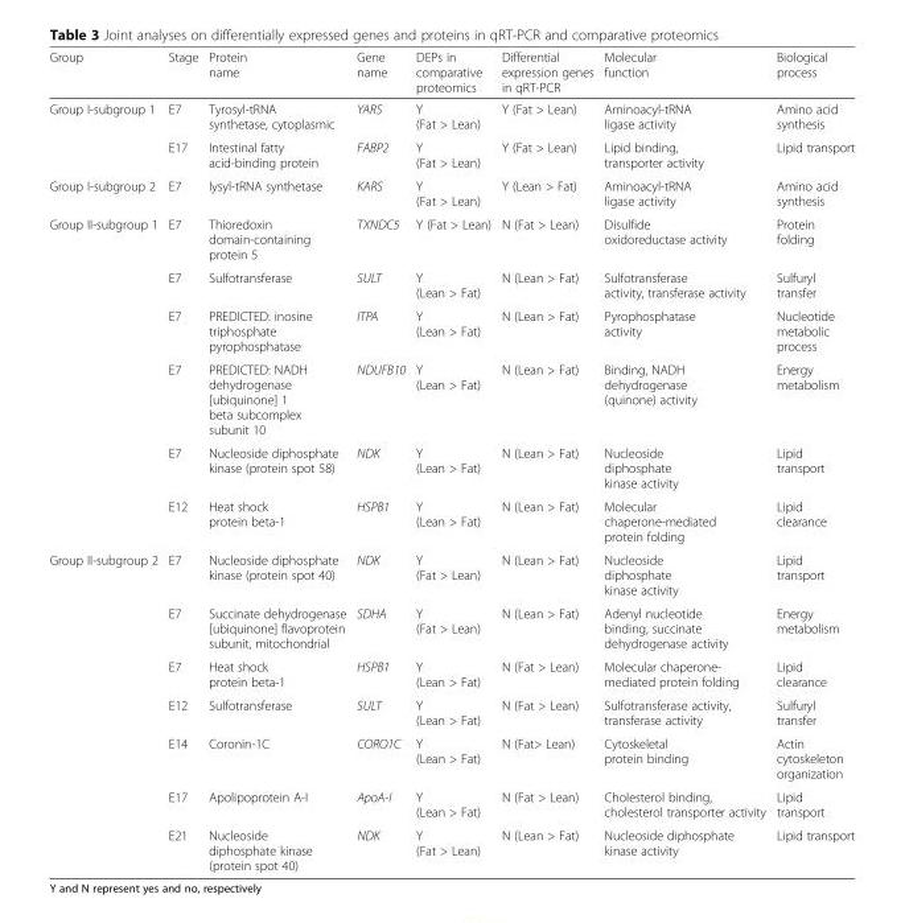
<table><thead><tr><td>Group</td><td>Stage</td><td>Protein name</td><td>Gene name</td><td>DEPs in comparative proteomics</td><td>Differential expression genes in qRT-PCR</td><td>Molecular function</td><td>Biological process</td></tr></thead><tbody><tr><td rowspan="2">Group I-subgroup 1</td><td>E7</td><td>Tyrosyl-tRNA synthetase, cytoplasmic</td><td>YARS</td><td>Y (Fat &gt; Lean)</td><td>Y (Fat &gt; Lean)</td><td>Aminoacyl-tRNA ligase activity</td><td>Amino acid synthesis</td></tr><tr><td>E17</td><td>Intestinal fatty acid-binding protein</td><td>FABP2</td><td>Y (Fat &gt; Lean)</td><td>Y (Fat &gt; Lean)</td><td>Lipid binding, transporter activity</td><td>Lipid transport</td></tr><tr><td>Group I-subgroup 2</td><td>E7</td><td>lysyl-tRNA synthetase</td><td>KARS</td><td>Y (Fat &gt; Lean)</td><td>Y (Lean &gt; Fat)</td><td>Aminoacyl-tRNA ligase activity</td><td>Amino acid synthesis</td></tr><tr><td rowspan="6">Group II-subgroup 1</td><td>E7</td><td>Thioredoxin domain-containing protein 5</td><td>TXNDC5</td><td>Y (Fat &gt; Lean)</td><td>N (Fat &gt; Lean)</td><td>Disulfide oxidoreductase activity</td><td>Protein folding</td></tr><tr><td>E7</td><td>Sulfotransferase</td><td>SULT</td><td>Y (Lean &gt; Fat)</td><td>N (Lean &gt; Fat)</td><td>Sulfotransferase activity, transferase activity</td><td>Sulfuryl transfer</td></tr><tr><td>E7</td><td>PREDICTED: inosine triphosphate pyrophosphatase</td><td>ITPA</td><td>Y (Lean &gt; Fat)</td><td>N (Lean &gt; Fat)</td><td>Pyrophosphatase activity</td><td>Nucleotide metabolic process</td></tr><tr><td>E7</td><td>PREDICTED: NADH dehydrogenase [ubiquinone] 1 beta subcomplex subunit 10</td><td>NDUFB10</td><td>Y (Lean &gt; Fat)</td><td>N (Lean &gt; Fat)</td><td>Binding, NADH dehydrogenase (quinone) activity</td><td>Energy metabolism</td></tr><tr><td>E7</td><td>Nucleoside diphosphate kinase (protein spot 58)</td><td>NDK</td><td>Y (Lean &gt; Fat)</td><td>N (Lean &gt; Fat)</td><td>Nucleoside diphosphate kinase activity</td><td>Lipid transport</td></tr><tr><td>E12</td><td>Heat shock protein beta-1</td><td>HSPB1</td><td>Y (Lean &gt; Fat)</td><td>N (Lean &gt; Fat)</td><td>Molecular chaperone-mediated protein folding</td><td>Lipid clearance</td></tr><tr><td rowspan="7">Group II-subgroup 2</td><td>E7</td><td>Nucleoside diphosphate kinase (protein spot 40)</td><td>NDK</td><td>Y (Fat &gt; Lean)</td><td>N (Lean &gt; Fat)</td><td>Nucleoside diphosphate kinase activity</td><td>Lipid transport</td></tr><tr><td>E7</td><td>Succinate dehydrogenase [ubiquinone] flavoprotein subunit, mitochondrial</td><td>SDHA</td><td>Y (Fat &gt; Lean)</td><td>N (Lean &gt; Fat)</td><td>Adenyl nucleotide binding, succinate dehydrogenase activity</td><td>Energy metabolism</td></tr><tr><td>E7</td><td>Heat shock protein beta-1</td><td>HSPB1</td><td>Y (Lean &gt; Fat)</td><td>N (Fat &gt; Lean)</td><td>Molecular chaperone- mediated protein folding</td><td>Lipid clearance</td></tr><tr><td>E12</td><td>Sulfotransferase</td><td>SULT</td><td>Y (Lean &gt; Fat)</td><td>N (Fat &gt; Lean)</td><td>Sulfotransferase activity, transferase activity</td><td>Sulfuryl transfer</td></tr><tr><td>E14</td><td>Coronin-1C</td><td>CORO1C</td><td>Y (Lean &gt; Fat)</td><td>N (Fat&gt; Lean)</td><td>Cytoskeletal protein binding</td><td>Actin cytoskeleton organization</td></tr><tr><td>E17</td><td>Apolipoprotein A-I</td><td>ApoA-I</td><td>Y (Lean &gt; Fat)</td><td>N (Fat &gt; Lean)</td><td>Cholesterol binding, cholesterol transporter activity</td><td>Lipid transport</td></tr><tr><td>E21</td><td>Nucleoside diphosphate kinase (protein spot 40)</td><td>NDK</td><td>Y (Fat &gt; Lean)</td><td>N (Lean &gt; Fat)</td><td>Nucleoside diphosphate kinase activity</td><td>Lipid transport</td></tr></tbody></table>